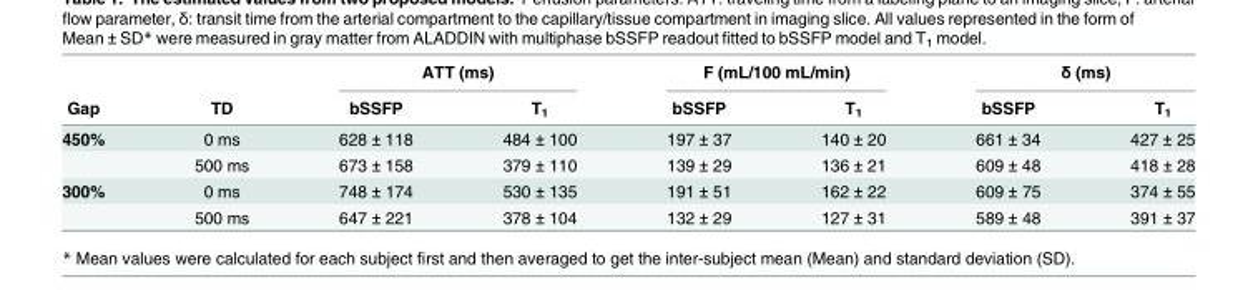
<table><thead><tr><td rowspan="2">Gap</td><td rowspan="2">TD</td><td colspan="2">ATT (ms)</td><td colspan="2">F (mL/100 mL/min)</td><td colspan="2">δ (ms)</td></tr><tr><td>bSSFP</td><td>T<sub>1</sub></td><td>bSSFP</td><td>T<sub>1</sub></td><td>bSSFP</td><td>T<sub>1</sub></td></tr></thead><tbody><tr><td rowspan="2">450%</td><td>0 ms</td><td>628 ± 118</td><td>484 ± 100</td><td>197 ± 37</td><td>140 ± 20</td><td>661 ± 34</td><td>427 ± 25</td></tr><tr><td>500 ms</td><td>673 ± 158</td><td>379 ± 110</td><td>139 ± 29</td><td>136 ± 21</td><td>609 ± 48</td><td>418 ± 28</td></tr><tr><td rowspan="2">300%</td><td>0 ms</td><td>748 ± 174</td><td>530 ± 135</td><td>191 ± 51</td><td>162 ± 22</td><td>609 ± 75</td><td>374 ± 55</td></tr><tr><td>500 ms</td><td>647 ± 221</td><td>378 ± 104</td><td>132 ± 29</td><td>127 ± 31</td><td>589 ± 48</td><td>391 ± 37</td></tr></tbody></table>